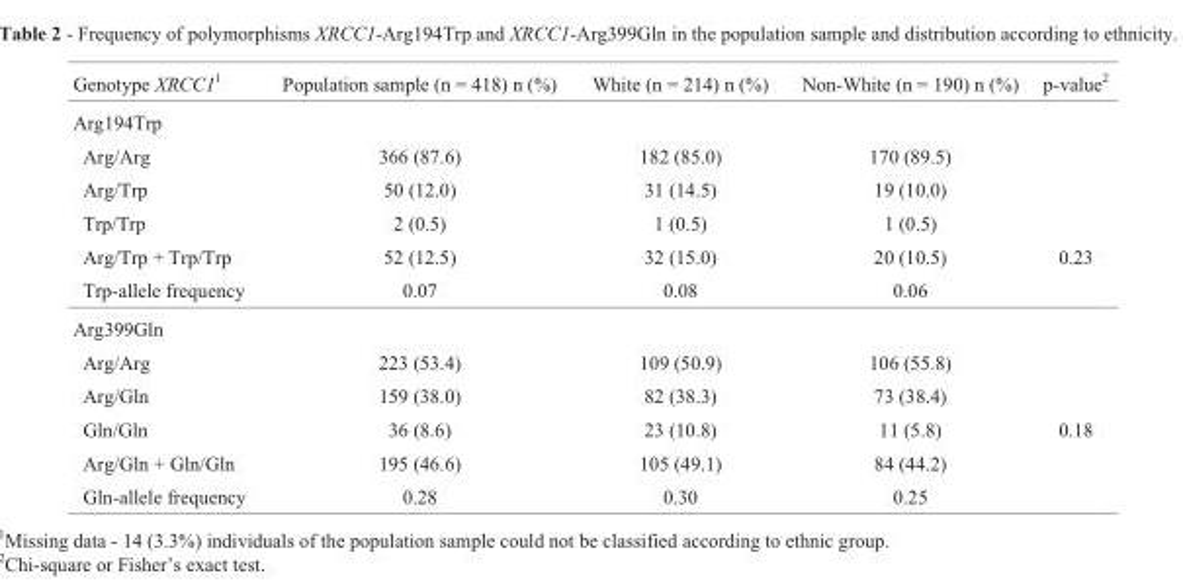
<table><thead><tr><td>Genotype XRCC1<sup>1</sup></td><td>Population sample (n = 418) n (%)</td><td>White (n = 214) n (%)</td><td>Non-White (n = 190) n (%)</td><td>p-value<sup>2</sup></td></tr></thead><tbody><tr><td colspan="5">Arg194Trp</td></tr><tr><td>Arg/Arg</td><td>366 (87.6)</td><td>182 (85.0)</td><td>170 (89.5)</td><td></td></tr><tr><td>Arg/Trp</td><td>50 (12.0)</td><td>31 (14.5)</td><td>19 (10.0)</td><td></td></tr><tr><td>Trp/Trp</td><td>2 (0.5)</td><td>1 (0.5)</td><td>1 (0.5)</td><td></td></tr><tr><td>Arg/Trp + Trp/Trp</td><td>52 (12.5)</td><td>32 (15.0)</td><td>20 (10.5)</td><td>0.23</td></tr><tr><td>Trp-allele frequency</td><td>0.07</td><td>0.08</td><td>0.06</td><td></td></tr><tr><td colspan="5">Arg399Gln</td></tr><tr><td>Arg/Arg</td><td>223 (53.4)</td><td>109 (50.9)</td><td>106 (55.8)</td><td></td></tr><tr><td>Arg/Gln</td><td>159 (38.0)</td><td>82 (38.3)</td><td>73 (38.4)</td><td></td></tr><tr><td>Gln/Gln</td><td>36 (8.6)</td><td>23 (10.8)</td><td>11 (5.8)</td><td>0.18</td></tr><tr><td>Arg/Gln + Gln/Gln</td><td>195 (46.6)</td><td>105 (49.1)</td><td>84 (44.2)</td><td></td></tr><tr><td>Gln-allele frequency</td><td>0.28</td><td>0.30</td><td>0.25</td><td></td></tr></tbody></table>